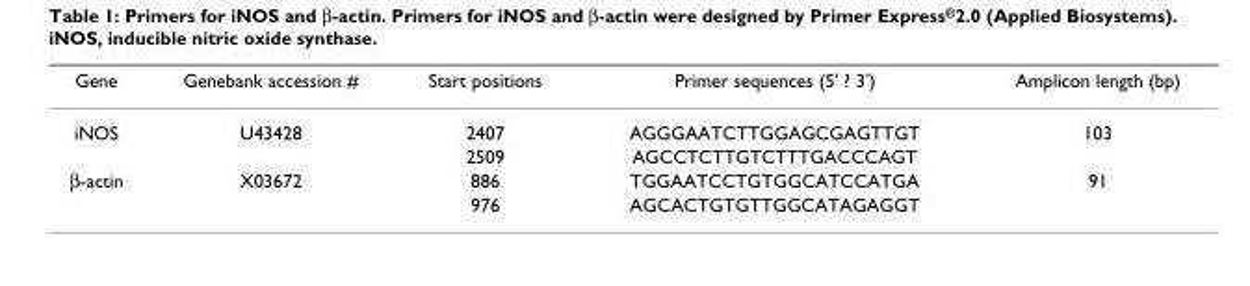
<table><thead><tr><td>Gene</td><td>Genebank accession #</td><td>Start positions</td><td>Primer sequences (5&#x27; ? 3&#x27;)</td><td>Amplicon length (bp)</td></tr></thead><tbody><tr><td rowspan="2">iNOS</td><td>U43428</td><td>2407</td><td>AGGGAATCTTGGAGCGAGTTGT</td><td>103</td></tr><tr><td></td><td>2509</td><td>AGCCTCTTGTCTTTGACCCAGT</td><td></td></tr><tr><td rowspan="2">β-actin</td><td>X03672</td><td>886</td><td>TGGAATCCTGTGGCATCCATGA</td><td>91</td></tr><tr><td></td><td>976</td><td>AGCACTGTGTTGGCATAGAGGT</td><td></td></tr></tbody></table>